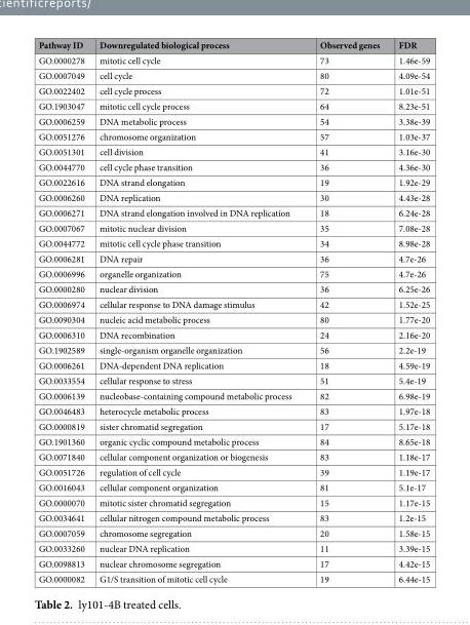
<table><thead><tr><td>Pathway ID</td><td>Downregulated biological process</td><td>Observed genes</td><td>FDR</td></tr></thead><tbody><tr><td>GO.0000278</td><td>mitotic cell cycle</td><td>73</td><td>1.46e-59</td></tr><tr><td>GO.0007049</td><td>cell cycle</td><td>80</td><td>4.09e-54</td></tr><tr><td>GO.0022402</td><td>cell cycle process</td><td>72</td><td>1.01e-51</td></tr><tr><td>GO.1903047</td><td>mitotic cell cycle process</td><td>64</td><td>8.23e-51</td></tr><tr><td>GO.0006259</td><td>DNA metabolic process</td><td>54</td><td>3.38e-39</td></tr><tr><td>GO.0051276</td><td>chromosome organization</td><td>57</td><td>1.03e-37</td></tr><tr><td>GO.0051301</td><td>cell division</td><td>41</td><td>3.16e-30</td></tr><tr><td>GO.0044770</td><td>cell cycle phase transition</td><td>36</td><td>4.36e-30</td></tr><tr><td>GO.0022616</td><td>DNA strand elongation</td><td>19</td><td>1.92e-29</td></tr><tr><td>GO.0006260</td><td>DNA replication</td><td>30</td><td>4.43e-28</td></tr><tr><td>GO.0006271</td><td>DNA strand elongation involved in DNA replication</td><td>18</td><td>6.24e-28</td></tr><tr><td>GO.0007067</td><td>mitotic nuclear division</td><td>35</td><td>7.08e-28</td></tr><tr><td>GO.0044772</td><td>mitotic cell cycle phase transition</td><td>34</td><td>8.98e-28</td></tr><tr><td>GO.0006281</td><td>DNA repair</td><td>36</td><td>4.7e-26</td></tr><tr><td>GO.0006996</td><td>organelle organization</td><td>75</td><td>4.7e-26</td></tr><tr><td>GO.0000280</td><td>nuclear division</td><td>36</td><td>6.25e-26</td></tr><tr><td>GO.0006974</td><td>cellular response to DNA damage stimulus</td><td>42</td><td>1.52e-25</td></tr><tr><td>GO.0090304</td><td>nucleic acid metabolic process</td><td>80</td><td>1.77e-20</td></tr><tr><td>GO.0006310</td><td>DNA recombination</td><td>24</td><td>2.16e-20</td></tr><tr><td>GO.1902589</td><td>single-organism organelle organization</td><td>56</td><td>2.2e-19</td></tr><tr><td>GO.0006261</td><td>DNA-dependent DNA replication</td><td>18</td><td>4.59e-19</td></tr><tr><td>GO.0033554</td><td>cellular response to stress</td><td>51</td><td>5.4e-19</td></tr><tr><td>GO.0006139</td><td>nucleobase-containing compound metabolic process</td><td>82</td><td>6.98e-19</td></tr><tr><td>GO.0046483</td><td>heterocycle metabolic process</td><td>83</td><td>1.97e-18</td></tr><tr><td>GO.0000819</td><td>sister chromatid segregation</td><td>17</td><td>5.17e-18</td></tr><tr><td>GO.1901360</td><td>organic cyclic compound metabolic process</td><td>84</td><td>8.65e-18</td></tr><tr><td>GO.0071840</td><td>cellular component organization or biogenesis</td><td>83</td><td>1.18e-17</td></tr><tr><td>GO.0051726</td><td>regulation of cell cycle</td><td>39</td><td>1.19e-17</td></tr><tr><td>GO.0016043</td><td>cellular component organization</td><td>81</td><td>5.1e-17</td></tr><tr><td>GO.0000070</td><td>mitotic sister chromatid segregation</td><td>15</td><td>1.17e-15</td></tr><tr><td>GO.0034641</td><td>cellular nitrogen compound metabolic process</td><td>83</td><td>1.2e-15</td></tr><tr><td>GO.0007059</td><td>chromosome segregation</td><td>20</td><td>1.58e-15</td></tr><tr><td>GO.0033260</td><td>nuclear DNA replication</td><td>11</td><td>3.39e-15</td></tr><tr><td>GO.0098813</td><td>nuclear chromosome segregation</td><td>17</td><td>4.42e-15</td></tr><tr><td>GO.0000082</td><td>G1/S transition of mitotic cell cycle</td><td>19</td><td>6.44e-15</td></tr></tbody></table>